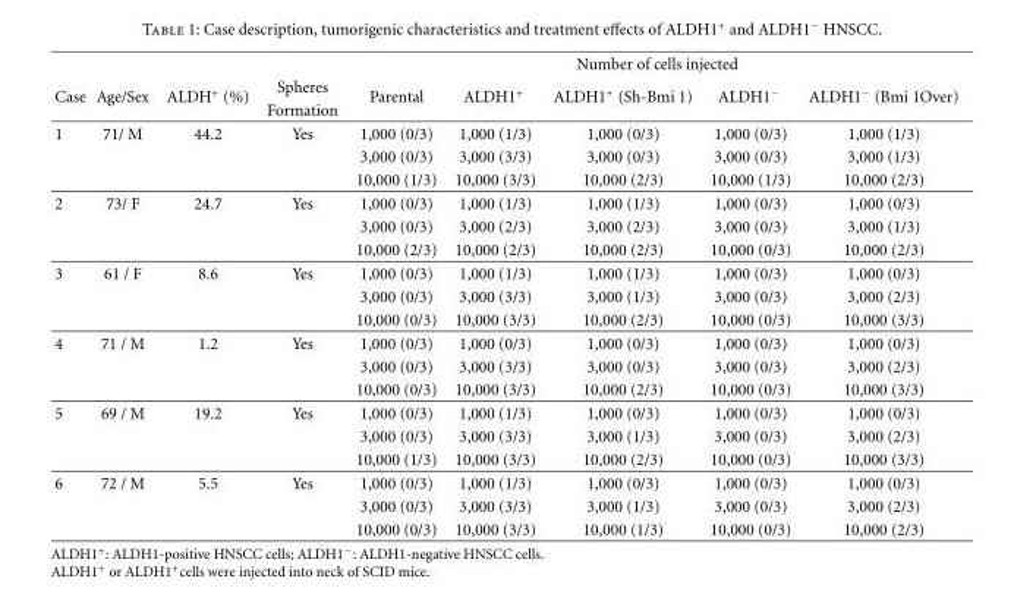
<table><thead><tr><td rowspan="3">Case</td><td rowspan="3">Age/Sex</td><td rowspan="3">ALDH<sup>+</sup> (%)</td><td rowspan="3">Spheres Formation</td><td colspan="5">Number of cells injected</td></tr><tr><td rowspan="2">Parental</td><td rowspan="2">ALDH1<sup>+</sup></td><td rowspan="2">ALDH1<sup>+</sup> (Sh-Bmi 1)</td><td rowspan="2">ALDH1<sup>−</sup></td><td rowspan="2">ALDH1<sup>−</sup> (Bmi 1Over)</td></tr><tr></tr></thead><tbody><tr><td rowspan="3">1</td><td>71/ M</td><td>44.2</td><td>Yes</td><td>1,000 (0/3)</td><td>1,000 (1/3)</td><td>1,000 (0/3)</td><td>1,000 (0/3)</td><td>1,000 (1/3)</td></tr><tr><td></td><td></td><td></td><td>3,000 (0/3)</td><td>3,000 (3/3)</td><td>3,000 (0/3)</td><td>3,000 (0/3)</td><td>3,000 (1/3)</td></tr><tr><td></td><td></td><td></td><td>10,000 (1/3)</td><td>10,000 (3/3)</td><td>10,000 (2/3)</td><td>10,000 (1/3)</td><td>10,000 (2/3)</td></tr><tr><td rowspan="3">2</td><td>73/ F</td><td>24.7</td><td>Yes</td><td>1,000 (0/3)</td><td>1,000 (1/3)</td><td>1,000 (1/3)</td><td>1,000 (0/3)</td><td>1,000 (0/3)</td></tr><tr><td></td><td></td><td></td><td>3,000 (0/3)</td><td>3,000 (2/3)</td><td>3,000 (2/3)</td><td>3,000 (0/3)</td><td>3,000 (1/3)</td></tr><tr><td></td><td></td><td></td><td>10,000 (2/3)</td><td>10,000 (2/3)</td><td>10,000 (2/3)</td><td>10,000 (0/3)</td><td>10,000 (2/3)</td></tr><tr><td rowspan="3">3</td><td>61 / F</td><td>8.6</td><td>Yes</td><td>1,000 (0/3)</td><td>1,000 (1/3)</td><td>1,000 (1/3)</td><td>1,000 (0/3)</td><td>1,000 (0/3)</td></tr><tr><td></td><td></td><td></td><td>3,000 (0/3)</td><td>3,000 (3/3)</td><td>3,000 (1/3)</td><td>3,000 (0/3)</td><td>3,000 (2/3)</td></tr><tr><td></td><td></td><td></td><td>10,000 (0/3)</td><td>10,000 (3/3)</td><td>10,000 (2/3)</td><td>10,000 (0/3)</td><td>10,000 (3/3)</td></tr><tr><td rowspan="3">4</td><td>71 / M</td><td>1.2</td><td>Yes</td><td>1,000 (0/3)</td><td>1,000 (0/3)</td><td>1,000 (0/3)</td><td>1,000 (0/3)</td><td>1,000 (0/3)</td></tr><tr><td></td><td></td><td></td><td>3,000 (0/3)</td><td>3,000 (3/3)</td><td>3,000 (0/3)</td><td>3,000 (0/3)</td><td>3,000 (2/3)</td></tr><tr><td></td><td></td><td></td><td>10,000 (0/3)</td><td>10,000 (3/3)</td><td>10,000 (2/3)</td><td>10,000 (0/3)</td><td>10,000 (3/3)</td></tr><tr><td rowspan="3">5</td><td>69 / M</td><td>19.2</td><td>Yes</td><td>1,000 (0/3)</td><td>1,000 (1/3)</td><td>1,000 (0/3)</td><td>1,000 (0/3)</td><td>1,000 (0/3)</td></tr><tr><td></td><td></td><td></td><td>3,000 (0/3)</td><td>3,000 (3/3)</td><td>3,000 (1/3)</td><td>3,000 (0/3)</td><td>3,000 (2/3)</td></tr><tr><td></td><td></td><td></td><td>10,000 (1/3)</td><td>10,000 (3/3)</td><td>10,000 (2/3)</td><td>10,000 (0/3)</td><td>10,000 (3/3)</td></tr><tr><td rowspan="3">6</td><td>72 / M</td><td>5.5</td><td>Yes</td><td>1,000 (0/3)</td><td>1,000 (1/3)</td><td>1,000 (0/3)</td><td>1,000 (0/3)</td><td>1,000 (0/3)</td></tr><tr><td></td><td></td><td></td><td>3,000 (0/3)</td><td>3,000 (3/3)</td><td>3,000 (1/3)</td><td>3,000 (0/3)</td><td>3,000 (2/3)</td></tr><tr><td></td><td></td><td></td><td>10,000 (0/3)</td><td>10,000 (3/3)</td><td>10,000 (1/3)</td><td>10,000 (0/3)</td><td>10,000 (2/3)</td></tr></tbody></table>